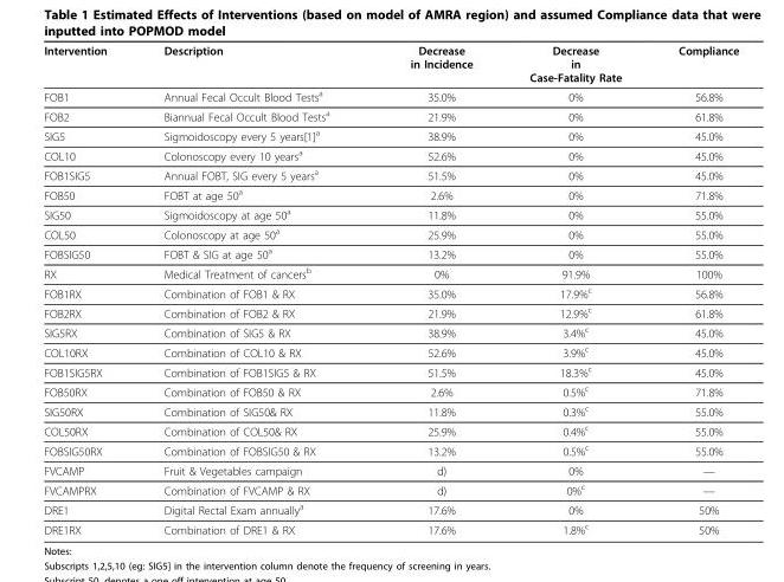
<table><thead><tr><td>Intervention</td><td>Description</td><td>Decrease in Incidence</td><td>Decrease in Case-Fatality Rate</td><td>Compliance</td></tr></thead><tbody><tr><td>FOB1</td><td>Annual Fecal Occult Blood Tests<sup>a</sup></td><td>35.0%</td><td>0%</td><td>56.8%</td></tr><tr><td>FOB2</td><td>Biannual Fecal Occult Blood Tests<sup>a</sup></td><td>21.9%</td><td>0%</td><td>61.8%</td></tr><tr><td>SIG5</td><td>Sigmoidoscopy every 5 years[1]<sup>a</sup></td><td>38.9%</td><td>0%</td><td>45.0%</td></tr><tr><td>COL10</td><td>Colonoscopy every 10 years<sup>a</sup></td><td>52.6%</td><td>0%</td><td>45.0%</td></tr><tr><td>FOB1SIG5</td><td>Annual FOBT, SIG every 5 years<sup>a</sup></td><td>51.5%</td><td>0%</td><td>45.0%</td></tr><tr><td>FOB50</td><td>FOBT at age 50<sup>a</sup></td><td>2.6%</td><td>0%</td><td>71.8%</td></tr><tr><td>SIG50</td><td>Sigmoidoscopy at age 50<sup>a</sup></td><td>11.8%</td><td>0%</td><td>55.0%</td></tr><tr><td>COL50</td><td>Colonoscopy at age 50<sup>a</sup></td><td>25.9%</td><td>0%</td><td>55.0%</td></tr><tr><td>FOBSIG50</td><td>FOBT &amp; SIG at age 50<sup>a</sup></td><td>13.2%</td><td>0%</td><td>55.0%</td></tr><tr><td>RX</td><td>Medical Treatment of cancers<sup>b</sup></td><td>0%</td><td>91.9%</td><td>100%</td></tr><tr><td>FOB1RX</td><td>Combination of FOB1 &amp; RX</td><td>35.0%</td><td>17.9%<sup>c</sup></td><td>56.8%</td></tr><tr><td>FOB2RX</td><td>Combination of FOB2 &amp; RX</td><td>21.9%</td><td>12.9%<sup>c</sup></td><td>61.8%</td></tr><tr><td>SIG5RX</td><td>Combination of SIG5 &amp; RX</td><td>38.9%</td><td>3.4%<sup>c</sup></td><td>45.0%</td></tr><tr><td>COL10RX</td><td>Combination of COL10 &amp; RX</td><td>52.6%</td><td>3.9%<sup>c</sup></td><td>45.0%</td></tr><tr><td>FOB1SIG5RX</td><td>Combination of FOB1SIG5 &amp; RX</td><td>51.5%</td><td>18.3%<sup>c</sup></td><td>45.0%</td></tr><tr><td>FOB50RX</td><td>Combination of FOB50 &amp; RX</td><td>2.6%</td><td>0.5%<sup>c</sup></td><td>71.8%</td></tr><tr><td>SIG50RX</td><td>Combination of SIG50&amp; RX</td><td>11.8%</td><td>0.3%<sup>c</sup></td><td>55.0%</td></tr><tr><td>COL50RX</td><td>Combination of COL50&amp; RX</td><td>25.9%</td><td>0.4%<sup>c</sup></td><td>55.0%</td></tr><tr><td>FOBSIG50RX</td><td>Combination of FOBSIG50 &amp; RX</td><td>13.2%</td><td>0.5%<sup>c</sup></td><td>55.0%</td></tr><tr><td>FVCAMP</td><td>Fruit &amp; Vegetables campaign</td><td>d)</td><td>0%</td><td>—</td></tr><tr><td>FVCAMPRX</td><td>Combination of FVCAMP &amp; RX</td><td>d)</td><td>0%<sup>c</sup></td><td>—</td></tr><tr><td>DRE1</td><td>Digital Rectal Exam annually<sup>a</sup></td><td>17.6%</td><td>0%</td><td>50%</td></tr><tr><td>DRE1RX</td><td>Combination of DRE1 &amp; RX</td><td>17.6%</td><td>1.8%<sup>c</sup></td><td>50%</td></tr></tbody></table>